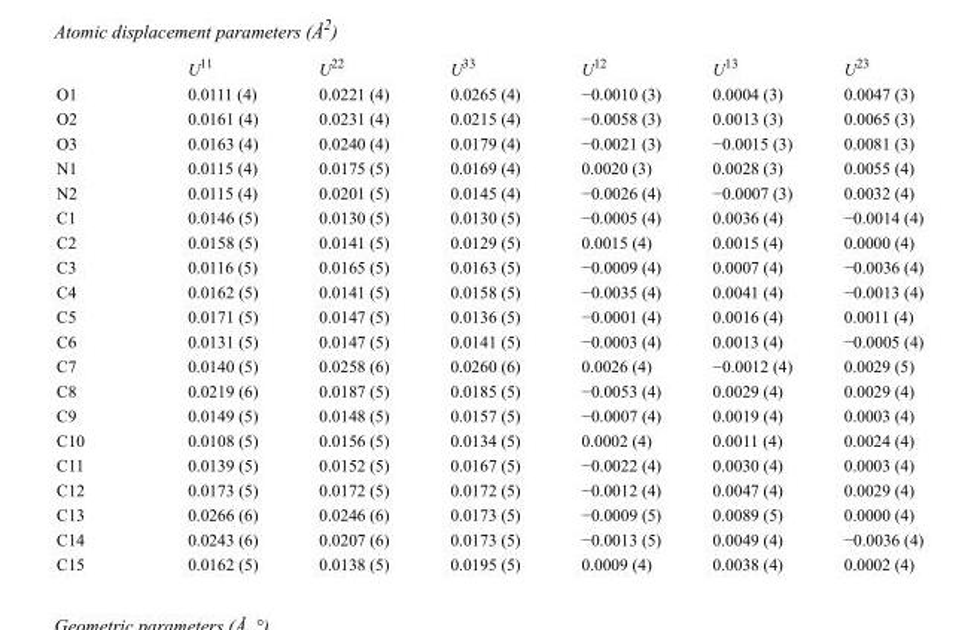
<table><thead><tr><td></td><td>U<sup>11</sup></td><td>U<sup>22</sup></td><td>U<sup>33</sup></td><td>U<sup>12</sup></td><td>U<sup>13</sup></td><td>U<sup>23</sup></td></tr></thead><tbody><tr><td>O1</td><td>0.0111 (4)</td><td>0.0221 (4)</td><td>0.0265 (4)</td><td>−0.0010 (3)</td><td>0.0004 (3)</td><td>0.0047 (3)</td></tr><tr><td>O2</td><td>0.0161 (4)</td><td>0.0231 (4)</td><td>0.0215 (4)</td><td>−0.0058 (3)</td><td>0.0013 (3)</td><td>0.0065 (3)</td></tr><tr><td>O3</td><td>0.0163 (4)</td><td>0.0240 (4)</td><td>0.0179 (4)</td><td>−0.0021 (3)</td><td>−0.0015 (3)</td><td>0.0081 (3)</td></tr><tr><td>N1</td><td>0.0115 (4)</td><td>0.0175 (5)</td><td>0.0169 (4)</td><td>0.0020 (3)</td><td>0.0028 (3)</td><td>0.0055 (4)</td></tr><tr><td>N2</td><td>0.0115 (4)</td><td>0.0201 (5)</td><td>0.0145 (4)</td><td>−0.0026 (4)</td><td>−0.0007 (3)</td><td>0.0032 (4)</td></tr><tr><td>C1</td><td>0.0146 (5)</td><td>0.0130 (5)</td><td>0.0130 (5)</td><td>−0.0005 (4)</td><td>0.0036 (4)</td><td>−0.0014 (4)</td></tr><tr><td>C2</td><td>0.0158 (5)</td><td>0.0141 (5)</td><td>0.0129 (5)</td><td>0.0015 (4)</td><td>0.0015 (4)</td><td>0.0000 (4)</td></tr><tr><td>C3</td><td>0.0116 (5)</td><td>0.0165 (5)</td><td>0.0163 (5)</td><td>−0.0009 (4)</td><td>0.0007 (4)</td><td>−0.0036 (4)</td></tr><tr><td>C4</td><td>0.0162 (5)</td><td>0.0141 (5)</td><td>0.0158 (5)</td><td>−0.0035 (4)</td><td>0.0041 (4)</td><td>−0.0013 (4)</td></tr><tr><td>C5</td><td>0.0171 (5)</td><td>0.0147 (5)</td><td>0.0136 (5)</td><td>−0.0001 (4)</td><td>0.0016 (4)</td><td>0.0011 (4)</td></tr><tr><td>C6</td><td>0.0131 (5)</td><td>0.0147 (5)</td><td>0.0141 (5)</td><td>−0.0003 (4)</td><td>0.0013 (4)</td><td>−0.0005 (4)</td></tr><tr><td>C7</td><td>0.0140 (5)</td><td>0.0258 (6)</td><td>0.0260 (6)</td><td>0.0026 (4)</td><td>−0.0012 (4)</td><td>0.0029 (5)</td></tr><tr><td>C8</td><td>0.0219 (6)</td><td>0.0187 (5)</td><td>0.0185 (5)</td><td>−0.0053 (4)</td><td>0.0029 (4)</td><td>0.0029 (4)</td></tr><tr><td>C9</td><td>0.0149 (5)</td><td>0.0148 (5)</td><td>0.0157 (5)</td><td>−0.0007 (4)</td><td>0.0019 (4)</td><td>0.0003 (4)</td></tr><tr><td>C10</td><td>0.0108 (5)</td><td>0.0156 (5)</td><td>0.0134 (5)</td><td>0.0002 (4)</td><td>0.0011 (4)</td><td>0.0024 (4)</td></tr><tr><td>C11</td><td>0.0139 (5)</td><td>0.0152 (5)</td><td>0.0167 (5)</td><td>−0.0022 (4)</td><td>0.0030 (4)</td><td>0.0003 (4)</td></tr><tr><td>C12</td><td>0.0173 (5)</td><td>0.0172 (5)</td><td>0.0172 (5)</td><td>−0.0012 (4)</td><td>0.0047 (4)</td><td>0.0029 (4)</td></tr><tr><td>C13</td><td>0.0266 (6)</td><td>0.0246 (6)</td><td>0.0173 (5)</td><td>−0.0009 (5)</td><td>0.0089 (5)</td><td>0.0000 (4)</td></tr><tr><td>C14</td><td>0.0243 (6)</td><td>0.0207 (6)</td><td>0.0173 (5)</td><td>−0.0013 (5)</td><td>0.0049 (4)</td><td>−0.0036 (4)</td></tr><tr><td>C15</td><td>0.0162 (5)</td><td>0.0138 (5)</td><td>0.0195 (5)</td><td>0.0009 (4)</td><td>0.0038 (4)</td><td>0.0002 (4)</td></tr></tbody></table>